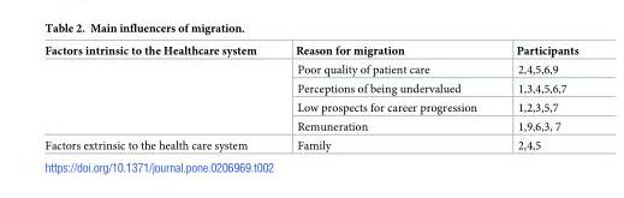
<table><thead><tr><td>Factors intrinsic to the Healthcare system</td><td>Reason for migration</td><td>Participants</td></tr></thead><tbody><tr><td rowspan="4"></td><td>Poor quality of patient care</td><td>2,4,5,6,9</td></tr><tr><td>Perceptions of being undervalued</td><td>1,3,4,5,6,7</td></tr><tr><td>Low prospects for career progression</td><td>1,2,3,5,7</td></tr><tr><td>Remuneration</td><td>1,9,6,3, 7</td></tr><tr><td>Factors extrinsic to the health care system</td><td>Family</td><td>2,4,5</td></tr></tbody></table>